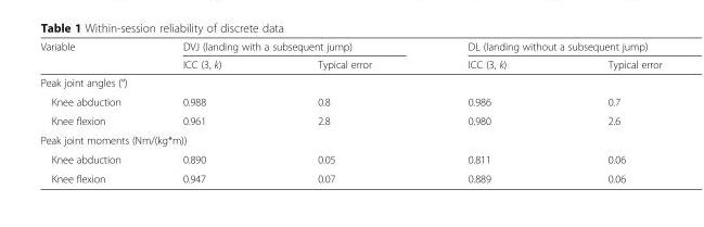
<table><thead><tr><td rowspan="2">Variable</td><td colspan="2">DVJ (landing with a subsequent jump)</td><td colspan="2">DL (landing without a subsequent jump)</td></tr><tr><td>ICC (3, k)</td><td>Typical error</td><td>ICC (3, k)</td><td>Typical error</td></tr></thead><tbody><tr><td colspan="5">Peak joint angles (°)</td></tr><tr><td>Knee abduction</td><td>0.988</td><td>0.8</td><td>0.986</td><td>0.7</td></tr><tr><td>Knee flexion</td><td>0.961</td><td>2.8</td><td>0.980</td><td>2.6</td></tr><tr><td colspan="5">Peak joint moments (Nm/(kg*m))</td></tr><tr><td>Knee abduction</td><td>0.890</td><td>0.05</td><td>0.811</td><td>0.06</td></tr><tr><td>Knee flexion</td><td>0.947</td><td>0.07</td><td>0.889</td><td>0.06</td></tr></tbody></table>